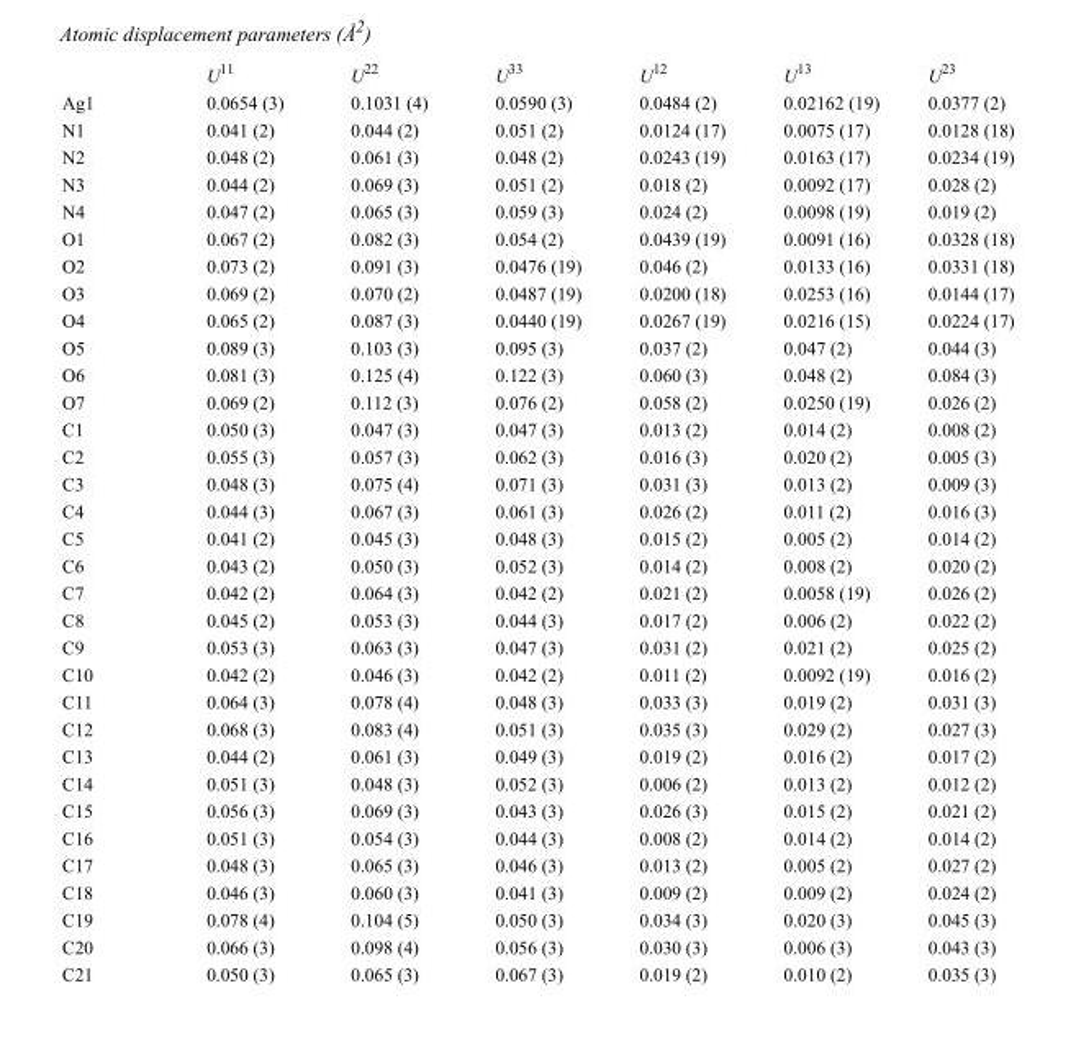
<table><thead><tr><td></td><td>U<sup>11</sup></td><td>U<sup>22</sup></td><td>U<sup>33</sup></td><td>U<sup>12</sup></td><td>U<sup>13</sup></td><td>U<sup>23</sup></td></tr></thead><tbody><tr><td>Ag1</td><td>0.0654 (3)</td><td>0.1031 (4)</td><td>0.0590 (3)</td><td>0.0484 (2)</td><td>0.02162 (19)</td><td>0.0377 (2)</td></tr><tr><td>N1</td><td>0.041 (2)</td><td>0.044 (2)</td><td>0.051 (2)</td><td>0.0124 (17)</td><td>0.0075 (17)</td><td>0.0128 (18)</td></tr><tr><td>N2</td><td>0.048 (2)</td><td>0.061 (3)</td><td>0.048 (2)</td><td>0.0243 (19)</td><td>0.0163 (17)</td><td>0.0234 (19)</td></tr><tr><td>N3</td><td>0.044 (2)</td><td>0.069 (3)</td><td>0.051 (2)</td><td>0.018 (2)</td><td>0.0092 (17)</td><td>0.028 (2)</td></tr><tr><td>N4</td><td>0.047 (2)</td><td>0.065 (3)</td><td>0.059 (3)</td><td>0.024 (2)</td><td>0.0098 (19)</td><td>0.019 (2)</td></tr><tr><td>O1</td><td>0.067 (2)</td><td>0.082 (3)</td><td>0.054 (2)</td><td>0.0439 (19)</td><td>0.0091 (16)</td><td>0.0328 (18)</td></tr><tr><td>O2</td><td>0.073 (2)</td><td>0.091 (3)</td><td>0.0476 (19)</td><td>0.046 (2)</td><td>0.0133 (16)</td><td>0.0331 (18)</td></tr><tr><td>O3</td><td>0.069 (2)</td><td>0.070 (2)</td><td>0.0487 (19)</td><td>0.0200 (18)</td><td>0.0253 (16)</td><td>0.0144 (17)</td></tr><tr><td>O4</td><td>0.065 (2)</td><td>0.087 (3)</td><td>0.0440 (19)</td><td>0.0267 (19)</td><td>0.0216 (15)</td><td>0.0224 (17)</td></tr><tr><td>O5</td><td>0.089 (3)</td><td>0.103 (3)</td><td>0.095 (3)</td><td>0.037 (2)</td><td>0.047 (2)</td><td>0.044 (3)</td></tr><tr><td>O6</td><td>0.081 (3)</td><td>0.125 (4)</td><td>0.122 (3)</td><td>0.060 (3)</td><td>0.048 (2)</td><td>0.084 (3)</td></tr><tr><td>O7</td><td>0.069 (2)</td><td>0.112 (3)</td><td>0.076 (2)</td><td>0.058 (2)</td><td>0.0250 (19)</td><td>0.026 (2)</td></tr><tr><td>C1</td><td>0.050 (3)</td><td>0.047 (3)</td><td>0.047 (3)</td><td>0.013 (2)</td><td>0.014 (2)</td><td>0.008 (2)</td></tr><tr><td>C2</td><td>0.055 (3)</td><td>0.057 (3)</td><td>0.062 (3)</td><td>0.016 (3)</td><td>0.020 (2)</td><td>0.005 (3)</td></tr><tr><td>C3</td><td>0.048 (3)</td><td>0.075 (4)</td><td>0.071 (3)</td><td>0.031 (3)</td><td>0.013 (2)</td><td>0.009 (3)</td></tr><tr><td>C4</td><td>0.044 (3)</td><td>0.067 (3)</td><td>0.061 (3)</td><td>0.026 (2)</td><td>0.011 (2)</td><td>0.016 (3)</td></tr><tr><td>C5</td><td>0.041 (2)</td><td>0.045 (3)</td><td>0.048 (3)</td><td>0.015 (2)</td><td>0.005 (2)</td><td>0.014 (2)</td></tr><tr><td>C6</td><td>0.043 (2)</td><td>0.050 (3)</td><td>0.052 (3)</td><td>0.014 (2)</td><td>0.008 (2)</td><td>0.020 (2)</td></tr><tr><td>C7</td><td>0.042 (2)</td><td>0.064 (3)</td><td>0.042 (2)</td><td>0.021 (2)</td><td>0.0058 (19)</td><td>0.026 (2)</td></tr><tr><td>C8</td><td>0.045 (2)</td><td>0.053 (3)</td><td>0.044 (3)</td><td>0.017 (2)</td><td>0.006 (2)</td><td>0.022 (2)</td></tr><tr><td>C9</td><td>0.053 (3)</td><td>0.063 (3)</td><td>0.047 (3)</td><td>0.031 (2)</td><td>0.021 (2)</td><td>0.025 (2)</td></tr><tr><td>C10</td><td>0.042 (2)</td><td>0.046 (3)</td><td>0.042 (2)</td><td>0.011 (2)</td><td>0.0092 (19)</td><td>0.016 (2)</td></tr><tr><td>C11</td><td>0.064 (3)</td><td>0.078 (4)</td><td>0.048 (3)</td><td>0.033 (3)</td><td>0.019 (2)</td><td>0.031 (3)</td></tr><tr><td>C12</td><td>0.068 (3)</td><td>0.083 (4)</td><td>0.051 (3)</td><td>0.035 (3)</td><td>0.029 (2)</td><td>0.027 (3)</td></tr><tr><td>C13</td><td>0.044 (2)</td><td>0.061 (3)</td><td>0.049 (3)</td><td>0.019 (2)</td><td>0.016 (2)</td><td>0.017 (2)</td></tr><tr><td>C14</td><td>0.051 (3)</td><td>0.048 (3)</td><td>0.052 (3)</td><td>0.006 (2)</td><td>0.013 (2)</td><td>0.012 (2)</td></tr><tr><td>C15</td><td>0.056 (3)</td><td>0.069 (3)</td><td>0.043 (3)</td><td>0.026 (3)</td><td>0.015 (2)</td><td>0.021 (2)</td></tr><tr><td>C16</td><td>0.051 (3)</td><td>0.054 (3)</td><td>0.044 (3)</td><td>0.008 (2)</td><td>0.014 (2)</td><td>0.014 (2)</td></tr><tr><td>C17</td><td>0.048 (3)</td><td>0.065 (3)</td><td>0.046 (3)</td><td>0.013 (2)</td><td>0.005 (2)</td><td>0.027 (2)</td></tr><tr><td>C18</td><td>0.046 (3)</td><td>0.060 (3)</td><td>0.041 (3)</td><td>0.009 (2)</td><td>0.009 (2)</td><td>0.024 (2)</td></tr><tr><td>C19</td><td>0.078 (4)</td><td>0.104 (5)</td><td>0.050 (3)</td><td>0.034 (3)</td><td>0.020 (3)</td><td>0.045 (3)</td></tr><tr><td>C20</td><td>0.066 (3)</td><td>0.098 (4)</td><td>0.056 (3)</td><td>0.030 (3)</td><td>0.006 (3)</td><td>0.043 (3)</td></tr><tr><td>C21</td><td>0.050 (3)</td><td>0.065 (3)</td><td>0.067 (3)</td><td>0.019 (2)</td><td>0.010 (2)</td><td>0.035 (3)</td></tr></tbody></table>